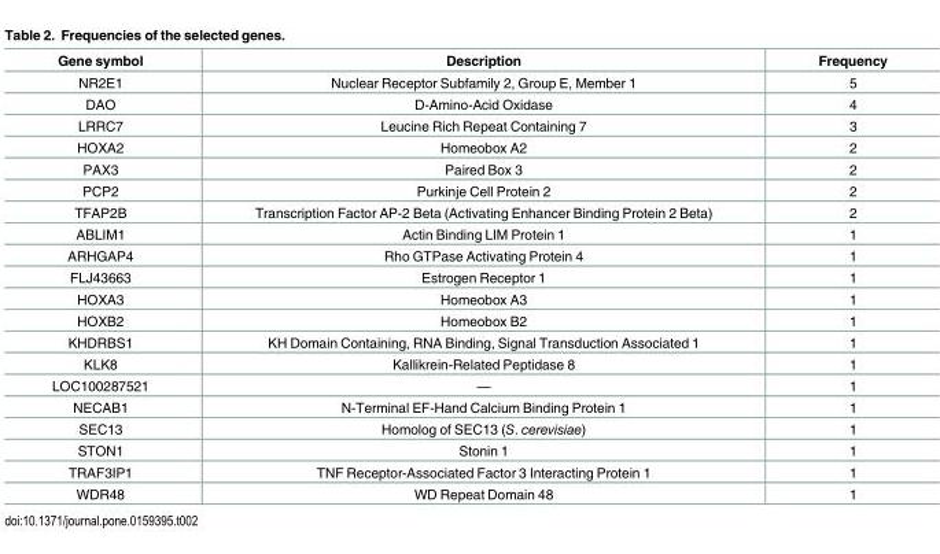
<table><thead><tr><td>Gene symbol</td><td>Description</td><td>Frequency</td></tr></thead><tbody><tr><td>NR2E1</td><td>Nuclear Receptor Subfamily 2, Group E, Member 1</td><td>5</td></tr><tr><td>DAO</td><td>D-Amino-Acid Oxidase</td><td>4</td></tr><tr><td>LRRC7</td><td>Leucine Rich Repeat Containing 7</td><td>3</td></tr><tr><td>HOXA2</td><td>Homeobox A2</td><td>2</td></tr><tr><td>PAX3</td><td>Paired Box 3</td><td>2</td></tr><tr><td>PCP2</td><td>Purkinje Cell Protein 2</td><td>2</td></tr><tr><td>TFAP2B</td><td>Transcription Factor AP-2 Beta (Activating Enhancer Binding Protein 2 Beta)</td><td>2</td></tr><tr><td>ABLIM1</td><td>Actin Binding LIM Protein 1</td><td>1</td></tr><tr><td>ARHGAP4</td><td>Rho GTPase Activating Protein 4</td><td>1</td></tr><tr><td>FLJ43663</td><td>Estrogen Receptor 1</td><td>1</td></tr><tr><td>HOXA3</td><td>Homeobox A3</td><td>1</td></tr><tr><td>HOXB2</td><td>Homeobox B2</td><td>1</td></tr><tr><td>KHDRBS1</td><td>KH Domain Containing, RNA Binding, Signal Transduction Associated 1</td><td>1</td></tr><tr><td>KLK8</td><td>Kallikrein-Related Peptidase 8</td><td>1</td></tr><tr><td>LOC100287521</td><td>—</td><td>1</td></tr><tr><td>NECAB1</td><td>N-Terminal EF-Hand Calcium Binding Protein 1</td><td>1</td></tr><tr><td>SEC13</td><td>Homolog of SEC13 (S. cerevisiae)</td><td>1</td></tr><tr><td>STON1</td><td>Stonin 1</td><td>1</td></tr><tr><td>TRAF3IP1</td><td>TNF Receptor-Associated Factor 3 Interacting Protein 1</td><td>1</td></tr><tr><td>WDR48</td><td>WD Repeat Domain 48</td><td>1</td></tr></tbody></table>